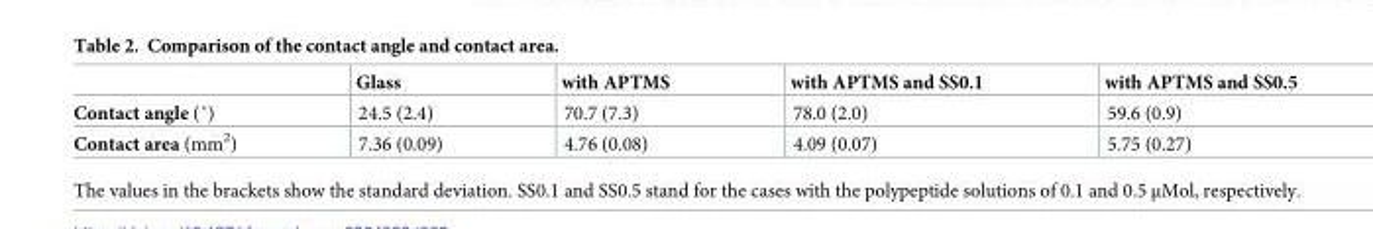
<table><thead><tr><td></td><td>Glass</td><td>with APTMS</td><td>with APTMS and SS0.1</td><td>with APTMS and SS0.5</td></tr></thead><tbody><tr><td>Contact angle (˚)</td><td>24.5 (2.4)</td><td>70.7 (7.3)</td><td>78.0 (2.0)</td><td>59.6 (0.9)</td></tr><tr><td>Contact area (mm<sup>2</sup>)</td><td>7.36 (0.09)</td><td>4.76 (0.08)</td><td>4.09 (0.07)</td><td>5.75 (0.27)</td></tr></tbody></table>